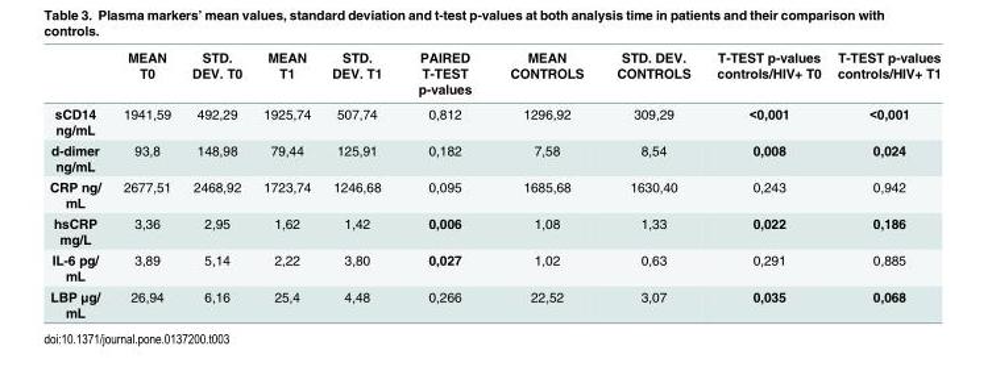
<table><thead><tr><td></td><td>MEAN T0</td><td>STD. DEV. T0</td><td>MEAN T1</td><td>STD. DEV. T1</td><td>PAIRED T-TEST p-values</td><td>MEAN CONTROLS</td><td>STD. DEV. CONTROLS</td><td>T-TEST p-values controls/HIV+ T0</td><td>T-TEST p-values controls/HIV+ T1</td></tr></thead><tbody><tr><td>sCD14 ng/mL</td><td>1941,59</td><td>492,29</td><td>1925,74</td><td>507,74</td><td>0,812</td><td>1296,92</td><td>309,29</td><td>&lt;0,001</td><td>&lt;0,001</td></tr><tr><td>d-dimer ng/mL</td><td>93,8</td><td>148,98</td><td>79,44</td><td>125,91</td><td>0,182</td><td>7,58</td><td>8,54</td><td>0,008</td><td>0,024</td></tr><tr><td>CRP ng/ mL</td><td>2677,51</td><td>2468,92</td><td>1723,74</td><td>1246,68</td><td>0,095</td><td>1685,68</td><td>1630,40</td><td>0,243</td><td>0,942</td></tr><tr><td>hsCRP mg/L</td><td>3,36</td><td>2,95</td><td>1,62</td><td>1,42</td><td>0,006</td><td>1,08</td><td>1,33</td><td>0,022</td><td>0,186</td></tr><tr><td>IL-6 pg/ mL</td><td>3,89</td><td>5,14</td><td>2,22</td><td>3,80</td><td>0,027</td><td>1,02</td><td>0,63</td><td>0,291</td><td>0,885</td></tr><tr><td>LBP μg/ mL</td><td>26,94</td><td>6,16</td><td>25,4</td><td>4,48</td><td>0,266</td><td>22,52</td><td>3,07</td><td>0,035</td><td>0,068</td></tr></tbody></table>